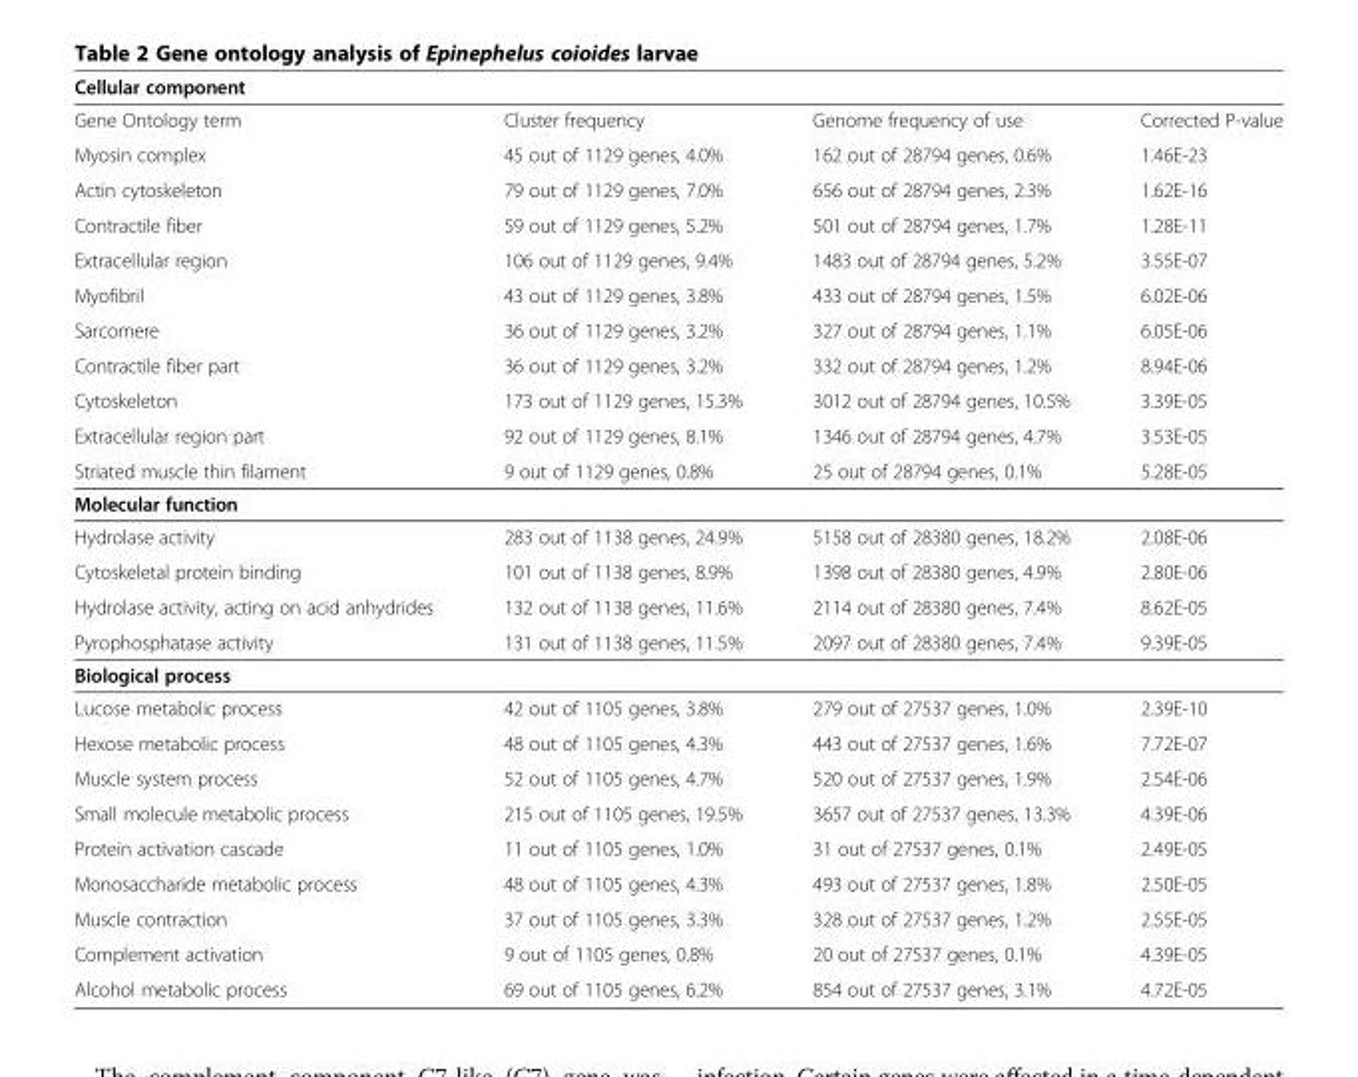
<table><tbody><tr><td colspan="4">Cellular component</td></tr><tr><td>Gene Ontology term</td><td>Cluster frequency</td><td>Genome frequency of use</td><td>Corrected P-value</td></tr><tr><td>Myosin complex</td><td>45 out of 1129 genes, 4.0%</td><td>162 out of 28794 genes, 0.6%</td><td>1.46E-23</td></tr><tr><td>Actin cytoskeleton</td><td>79 out of 1129 genes, 7.0%</td><td>656 out of 28794 genes, 2.3%</td><td>1.62E-16</td></tr><tr><td>Contractile fiber</td><td>59 out of 1129 genes, 5.2%</td><td>501 out of 28794 genes, 1.7%</td><td>1.28E-11</td></tr><tr><td>Extracellular region</td><td>106 out of 1129 genes, 9.4%</td><td>1483 out of 28794 genes, 5.2%</td><td>3.55E-07</td></tr><tr><td>Myofibril</td><td>43 out of 1129 genes, 3.8%</td><td>433 out of 28794 genes, 1.5%</td><td>6.02E-06</td></tr><tr><td>Sarcomere</td><td>36 out of 1129 genes, 3.2%</td><td>327 out of 28794 genes, 1.1%</td><td>6.05E-06</td></tr><tr><td>Contractile fiber part</td><td>36 out of 1129 genes, 3.2%</td><td>332 out of 28794 genes, 1.2%</td><td>8.94E-06</td></tr><tr><td>Cytoskeleton</td><td>173 out of 1129 genes, 15.3%</td><td>3012 out of 28794 genes, 10.5%</td><td>3.39E-05</td></tr><tr><td>Extracellular region part</td><td>92 out of 1129 genes, 8.1%</td><td>1346 out of 28794 genes, 4.7%</td><td>3.53E-05</td></tr><tr><td>Striated muscle thin filament</td><td>9 out of 1129 genes, 0.8%</td><td>25 out of 28794 genes, 0.1%</td><td>5.28E-05</td></tr><tr><td colspan="4">Molecular function</td></tr><tr><td>Hydrolase activity</td><td>283 out of 1138 genes, 24.9%</td><td>5158 out of 28380 genes, 18.2%</td><td>2.08E-06</td></tr><tr><td>Cytoskeletal protein binding</td><td>101 out of 1138 genes, 8.9%</td><td>1398 out of 28380 genes, 4.9%</td><td>2.80E-06</td></tr><tr><td>Hydrolase activity, acting on acid anhydrides</td><td>132 out of 1138 genes, 11.6%</td><td>2114 out of 28380 genes, 7.4%</td><td>8.62E-05</td></tr><tr><td>Pyrophosphatase activity</td><td>131 out of 1138 genes, 11.5%</td><td>2097 out of 28380 genes, 7.4%</td><td>9.39E-05</td></tr><tr><td colspan="4">Biological process</td></tr><tr><td>Lucose metabolic process</td><td>42 out of 1105 genes, 3.8%</td><td>279 out of 27537 genes, 1.0%</td><td>2.39E-10</td></tr><tr><td>Hexose metabolic process</td><td>48 out of 1105 genes, 4.3%</td><td>443 out of 27537 genes, 1.6%</td><td>7.72E-07</td></tr><tr><td>Muscle system process</td><td>52 out of 1105 genes, 4.7%</td><td>520 out of 27537 genes, 1.9%</td><td>2.54E-06</td></tr><tr><td>Small molecule metabolic process</td><td>215 out of 1105 genes, 19.5%</td><td>3657 out of 27537 genes, 13.3%</td><td>4.39E-06</td></tr><tr><td>Protein activation cascade</td><td>11 out of 1105 genes, 1.0%</td><td>31 out of 27537 genes, 0.1%</td><td>2.49E-05</td></tr><tr><td>Monosaccharide metabolic process</td><td>48 out of 1105 genes, 4.3%</td><td>493 out of 27537 genes, 1.8%</td><td>2.50E-05</td></tr><tr><td>Muscle contraction</td><td>37 out of 1105 genes, 3.3%</td><td>328 out of 27537 genes, 1.2%</td><td>2.55E-05</td></tr><tr><td>Complement activation</td><td>9 out of 1105 genes, 0.8%</td><td>20 out of 27537 genes, 0.1%</td><td>4.39E-05</td></tr><tr><td>Alcohol metabolic process</td><td>69 out of 1105 genes, 6.2%</td><td>854 out of 27537 genes, 3.1%</td><td>4.72E-05</td></tr></tbody></table>